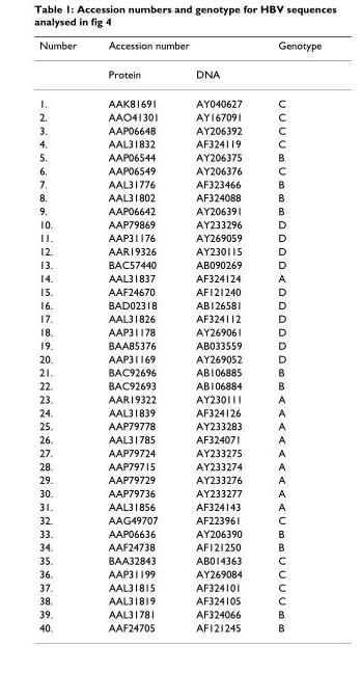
<table><thead><tr><td rowspan="2">Number</td><td colspan="2">Accession number</td><td rowspan="2">Genotype</td></tr><tr><td>Protein</td><td>DNA</td></tr></thead><tbody><tr><td>1.</td><td>AAK81691</td><td>AY040627</td><td>C</td></tr><tr><td>2.</td><td>AAO41301</td><td>AY167091</td><td>C</td></tr><tr><td>3.</td><td>AAP06648</td><td>AY206392</td><td>C</td></tr><tr><td>4.</td><td>AAL31832</td><td>AF324119</td><td>C</td></tr><tr><td>5.</td><td>AAP06544</td><td>AY206375</td><td>B</td></tr><tr><td>6.</td><td>AAP06549</td><td>AY206376</td><td>C</td></tr><tr><td>7.</td><td>AAL31776</td><td>AF323466</td><td>B</td></tr><tr><td>8.</td><td>AAL31802</td><td>AF324088</td><td>B</td></tr><tr><td>9.</td><td>AAP06642</td><td>AY206391</td><td>B</td></tr><tr><td>10.</td><td>AAP79869</td><td>AY233296</td><td>D</td></tr><tr><td>11.</td><td>AAP31176</td><td>AY269059</td><td>D</td></tr><tr><td>12.</td><td>AAR19326</td><td>AY230115</td><td>D</td></tr><tr><td>13.</td><td>BAC57440</td><td>AB090269</td><td>D</td></tr><tr><td>14.</td><td>AAL31837</td><td>AF324124</td><td>A</td></tr><tr><td>15.</td><td>AAF24670</td><td>AF121240</td><td>D</td></tr><tr><td>16.</td><td>BAD02318</td><td>AB126581</td><td>D</td></tr><tr><td>17.</td><td>AAL31826</td><td>AF324112</td><td>D</td></tr><tr><td>18.</td><td>AAP31178</td><td>AY269061</td><td>D</td></tr><tr><td>19.</td><td>BAA85376</td><td>AB033559</td><td>D</td></tr><tr><td>20.</td><td>AAP31169</td><td>AY269052</td><td>D</td></tr><tr><td>21.</td><td>BAC92696</td><td>AB106885</td><td>B</td></tr><tr><td>22.</td><td>BAC92693</td><td>AB106884</td><td>B</td></tr><tr><td>23.</td><td>AAR19322</td><td>AY230111</td><td>A</td></tr><tr><td>24.</td><td>AAL31839</td><td>AF324126</td><td>A</td></tr><tr><td>25.</td><td>AAP79778</td><td>AY233283</td><td>A</td></tr><tr><td>26.</td><td>AAL31785</td><td>AF324071</td><td>A</td></tr><tr><td>27.</td><td>AAP79724</td><td>AY233275</td><td>A</td></tr><tr><td>28.</td><td>AAP79715</td><td>AY233274</td><td>A</td></tr><tr><td>29.</td><td>AAP79729</td><td>AY233276</td><td>A</td></tr><tr><td>30.</td><td>AAP79736</td><td>AY233277</td><td>A</td></tr><tr><td>31.</td><td>AAL31856</td><td>AF324143</td><td>A</td></tr><tr><td>32.</td><td>AAG49707</td><td>AF223961</td><td>C</td></tr><tr><td>33.</td><td>AAP06636</td><td>AY206390</td><td>B</td></tr><tr><td>34.</td><td>AAF24738</td><td>AF121250</td><td>B</td></tr><tr><td>35.</td><td>BAA32843</td><td>AB014363</td><td>C</td></tr><tr><td>36.</td><td>AAP31199</td><td>AY269084</td><td>C</td></tr><tr><td>37.</td><td>AAL31815</td><td>AF324101</td><td>C</td></tr><tr><td>38.</td><td>AAL31819</td><td>AF324105</td><td>C</td></tr><tr><td>39.</td><td>AAL31781</td><td>AF324066</td><td>B</td></tr><tr><td>40.</td><td>AAF24705</td><td>AF121245</td><td>B</td></tr></tbody></table>